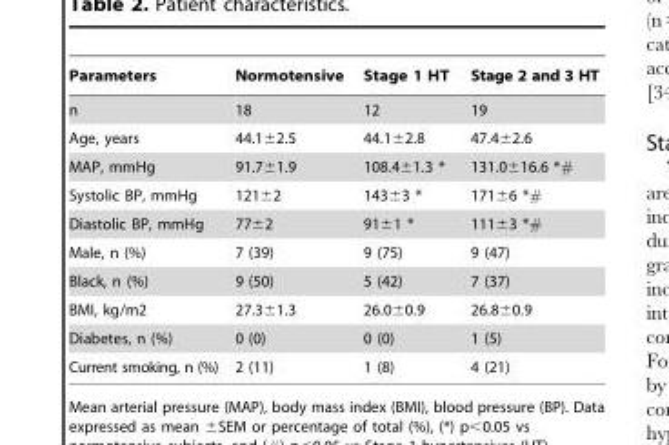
<table><thead><tr><td>Parameters</td><td>Normotensive</td><td>Stage 1 HT</td><td>Stage 2 and 3 HT</td></tr></thead><tbody><tr><td>n</td><td>18</td><td>12</td><td>19</td></tr><tr><td>Age, years</td><td>44.1±2.5</td><td>44.1±2.8</td><td>47.4±2.6</td></tr><tr><td>MAP, mmHg</td><td>91.7±1.9</td><td>108.4±1.3 *</td><td>131.0±16.6 *#</td></tr><tr><td>Systolic BP, mmHg</td><td>121±2</td><td>143±3 *</td><td>171±6 *#</td></tr><tr><td>Diastolic BP, mmHg</td><td>77±2</td><td>91±1 *</td><td>111±3 *#</td></tr><tr><td>Male, n (%)</td><td>7 (39)</td><td>9 (75)</td><td>9 (47)</td></tr><tr><td>Black, n (%)</td><td>9 (50)</td><td>5 (42)</td><td>7 (37)</td></tr><tr><td>BMI, kg/m2</td><td>27.3±1.3</td><td>26.0±0.9</td><td>26.8±0.9</td></tr><tr><td>Diabetes, n (%)</td><td>0 (0)</td><td>0 (0)</td><td>1 (5)</td></tr><tr><td>Current smoking, n (%)</td><td>2 (11)</td><td>1 (8)</td><td>4 (21)</td></tr></tbody></table>